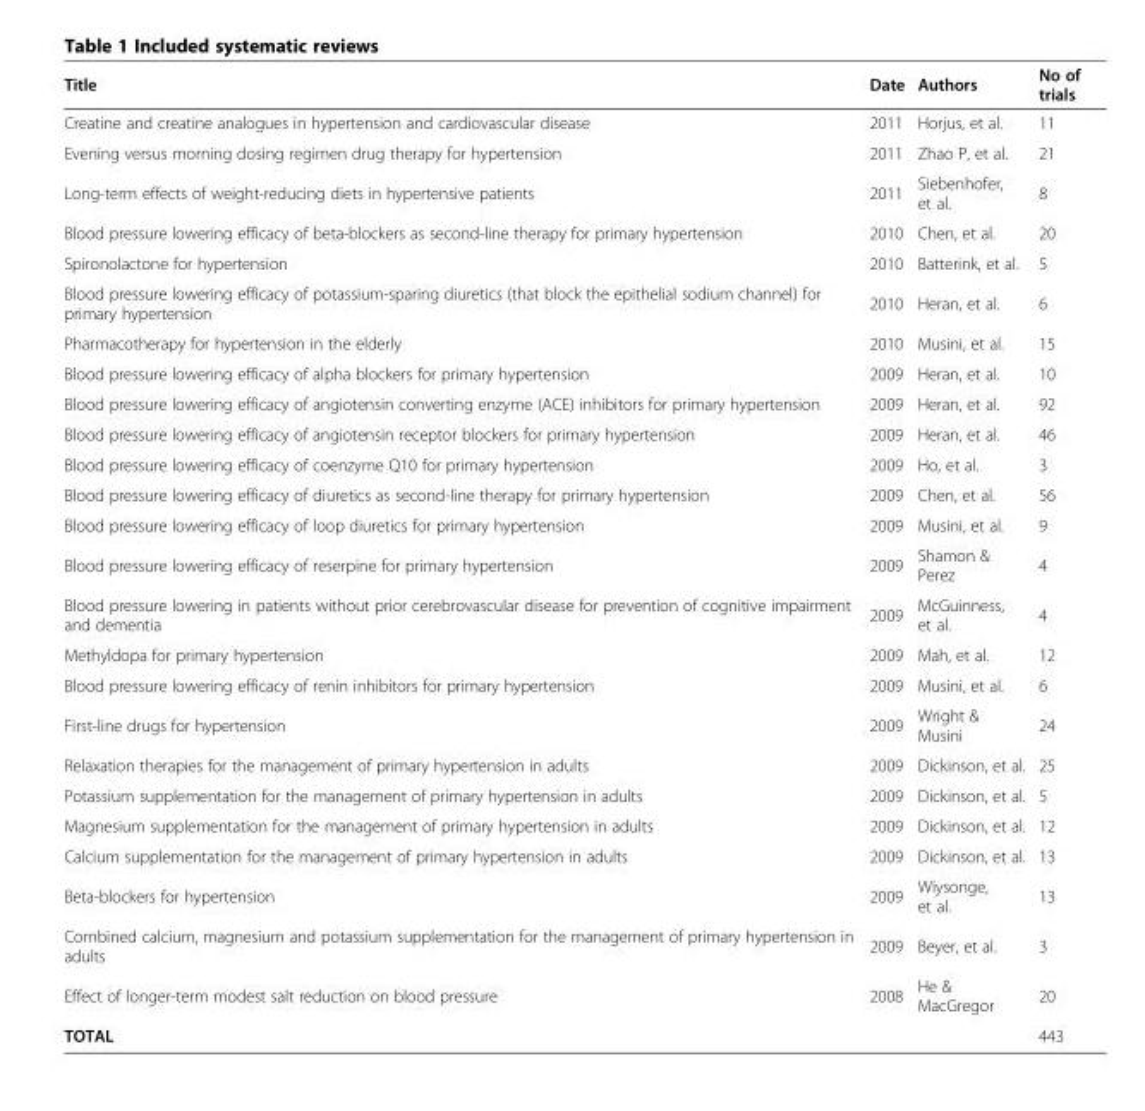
<table><thead><tr><td>Title</td><td>Date</td><td>Authors</td><td>No of trials</td></tr></thead><tbody><tr><td>Creatine and creatine analogues in hypertension and cardiovascular disease</td><td>2011</td><td>Horjus, et al.</td><td>11</td></tr><tr><td>Evening versus morning dosing regimen drug therapy for hypertension</td><td>2011</td><td>Zhao P, et al.</td><td>21</td></tr><tr><td>Long-term effects of weight-reducing diets in hypertensive patients</td><td>2011</td><td>Siebenhofer, et al.</td><td>8</td></tr><tr><td>Blood pressure lowering efficacy of beta-blockers as second-line therapy for primary hypertension</td><td>2010</td><td>Chen, et al.</td><td>20</td></tr><tr><td>Spironolactone for hypertension</td><td>2010</td><td>Batterink, et al.</td><td>5</td></tr><tr><td>Blood pressure lowering efficacy of potassium-sparing diuretics (that block the epithelial sodium channel) for primary hypertension</td><td>2010</td><td>Heran, et al.</td><td>6</td></tr><tr><td>Pharmacotherapy for hypertension in the elderly</td><td>2010</td><td>Musini, et al.</td><td>15</td></tr><tr><td>Blood pressure lowering efficacy of alpha blockers for primary hypertension</td><td>2009</td><td>Heran, et al.</td><td>10</td></tr><tr><td>Blood pressure lowering efficacy of angiotensin converting enzyme (ACE) inhibitors for primary hypertension</td><td>2009</td><td>Heran, et al.</td><td>92</td></tr><tr><td>Blood pressure lowering efficacy of angiotensin receptor blockers for primary hypertension</td><td>2009</td><td>Heran, et al.</td><td>46</td></tr><tr><td>Blood pressure lowering efficacy of coenzyme Q10 for primary hypertension</td><td>2009</td><td>Ho, et al.</td><td>3</td></tr><tr><td>Blood pressure lowering efficacy of diuretics as second-line therapy for primary hypertension</td><td>2009</td><td>Chen, et al.</td><td>56</td></tr><tr><td>Blood pressure lowering efficacy of loop diuretics for primary hypertension</td><td>2009</td><td>Musini, et al.</td><td>9</td></tr><tr><td>Blood pressure lowering efficacy of reserpine for primary hypertension</td><td>2009</td><td>Shamon &amp; Perez</td><td>4</td></tr><tr><td>Blood pressure lowering in patients without prior cerebrovascular disease for prevention of cognitive impairment and dementia</td><td>2009</td><td>McGuinness, et al.</td><td>4</td></tr><tr><td>Methyldopa for primary hypertension</td><td>2009</td><td>Mah, et al.</td><td>12</td></tr><tr><td>Blood pressure lowering efficacy of renin inhibitors for primary hypertension</td><td>2009</td><td>Musini, et al.</td><td>6</td></tr><tr><td>First-line drugs for hypertension</td><td>2009</td><td>Wright &amp; Musini</td><td>24</td></tr><tr><td>Relaxation therapies for the management of primary hypertension in adults</td><td>2009</td><td>Dickinson, et al.</td><td>25</td></tr><tr><td>Potassium supplementation for the management of primary hypertension in adults</td><td>2009</td><td>Dickinson, et al.</td><td>5</td></tr><tr><td>Magnesium supplementation for the management of primary hypertension in adults</td><td>2009</td><td>Dickinson, et al.</td><td>12</td></tr><tr><td>Calcium supplementation for the management of primary hypertension in adults</td><td>2009</td><td>Dickinson, et al.</td><td>13</td></tr><tr><td>Beta-blockers for hypertension</td><td>2009</td><td>Wiysonge, et al.</td><td>13</td></tr><tr><td>Combined calcium, magnesium and potassium supplementation for the management of primary hypertension in adults</td><td>2009</td><td>Beyer, et al.</td><td>3</td></tr><tr><td>Effect of longer-term modest salt reduction on blood pressure</td><td>2008</td><td>He &amp; MacGregor</td><td>20</td></tr><tr><td>TOTAL</td><td></td><td></td><td>443</td></tr></tbody></table>